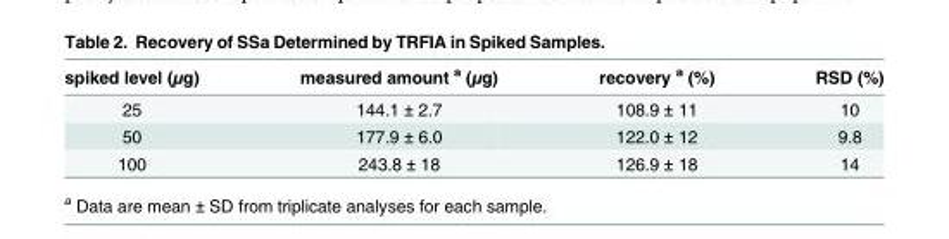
<table><thead><tr><td>spiked level (μg)</td><td>measured amount <sup>a</sup> (μg)</td><td>recovery <sup>a</sup> (%)</td><td>RSD (%)</td></tr></thead><tbody><tr><td>25</td><td>144.1 ± 2.7</td><td>108.9 ± 11</td><td>10</td></tr><tr><td>50</td><td>177.9 ± 6.0</td><td>122.0 ± 12</td><td>9.8</td></tr><tr><td>100</td><td>243.8 ± 18</td><td>126.9 ± 18</td><td>14</td></tr></tbody></table>